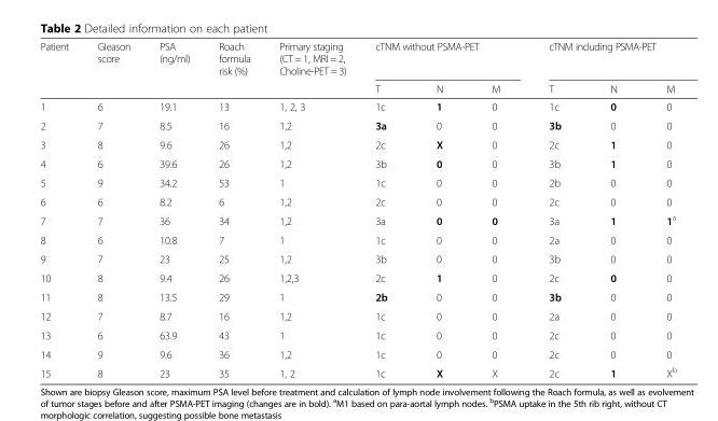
<table><thead><tr><td rowspan="2">Patient</td><td rowspan="2">Gleason score</td><td rowspan="2">PSA (ng/ml)</td><td rowspan="2">Roach formula risk (%)</td><td rowspan="2">Primary staging (CT = 1, MRI = 2, Choline-PET = 3)</td><td colspan="3">cTNM without PSMA-PET</td><td colspan="3">cTNM including PSMA-PET</td></tr><tr><td>T</td><td>N</td><td>M</td><td>T</td><td>N</td><td>M</td></tr></thead><tbody><tr><td>1</td><td>6</td><td>19.1</td><td>13</td><td>1, 2, 3</td><td>1c</td><td>1</td><td>0</td><td>1c</td><td>0</td><td>0</td></tr><tr><td>2</td><td>7</td><td>8.5</td><td>16</td><td>1,2</td><td>3a</td><td>0</td><td>0</td><td>3b</td><td>0</td><td>0</td></tr><tr><td>3</td><td>8</td><td>9.6</td><td>26</td><td>1,2</td><td>2c</td><td>X</td><td>0</td><td>2c</td><td>1</td><td>0</td></tr><tr><td>4</td><td>6</td><td>39.6</td><td>26</td><td>1,2</td><td>3b</td><td>0</td><td>0</td><td>3b</td><td>1</td><td>0</td></tr><tr><td>5</td><td>9</td><td>34.2</td><td>53</td><td>1</td><td>1c</td><td>0</td><td>0</td><td>2b</td><td>0</td><td>0</td></tr><tr><td>6</td><td>6</td><td>8.2</td><td>6</td><td>1,2</td><td>2c</td><td>0</td><td>0</td><td>2c</td><td>0</td><td>0</td></tr><tr><td>7</td><td>7</td><td>36</td><td>34</td><td>1,2</td><td>3a</td><td>0</td><td>0</td><td>3a</td><td>1</td><td>1<sup>a</sup></td></tr><tr><td>8</td><td>6</td><td>10.8</td><td>7</td><td>1</td><td>1c</td><td>0</td><td>0</td><td>2a</td><td>0</td><td>0</td></tr><tr><td>9</td><td>7</td><td>23</td><td>25</td><td>1,2</td><td>3b</td><td>0</td><td>0</td><td>3b</td><td>0</td><td>0</td></tr><tr><td>10</td><td>8</td><td>9.4</td><td>26</td><td>1,2,3</td><td>2c</td><td>1</td><td>0</td><td>2c</td><td>0</td><td>0</td></tr><tr><td>11</td><td>8</td><td>13.5</td><td>29</td><td>1</td><td>2b</td><td>0</td><td>0</td><td>3b</td><td>0</td><td>0</td></tr><tr><td>12</td><td>7</td><td>8.7</td><td>16</td><td>1,2</td><td>1c</td><td>0</td><td>0</td><td>2a</td><td>0</td><td>0</td></tr><tr><td>13</td><td>6</td><td>63.9</td><td>43</td><td>1</td><td>1c</td><td>0</td><td>0</td><td>2c</td><td>0</td><td>0</td></tr><tr><td>14</td><td>9</td><td>9.6</td><td>36</td><td>1,2</td><td>1c</td><td>0</td><td>0</td><td>2c</td><td>0</td><td>0</td></tr><tr><td>15</td><td>8</td><td>23</td><td>35</td><td>1, 2</td><td>1c</td><td>X</td><td>X</td><td>2c</td><td>1</td><td>X<sup>b</sup></td></tr></tbody></table>